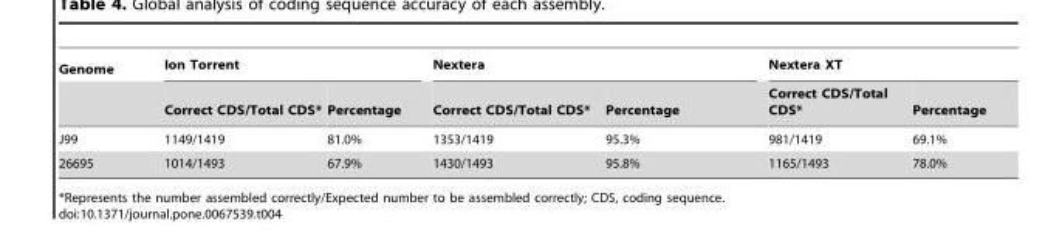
<table><thead><tr><td rowspan="2">Genome</td><td colspan="2">Ion Torrent</td><td colspan="2">Nextera</td><td colspan="2">Nextera XT</td></tr><tr><td>Correct CDS/Total CDS*</td><td>Percentage</td><td>Correct CDS/Total CDS*</td><td>Percentage</td><td>Correct CDS/Total CDS*</td><td>Percentage</td></tr></thead><tbody><tr><td>J99</td><td>1149/1419</td><td>81.0%</td><td>1353/1419</td><td>95.3%</td><td>981/1419</td><td>69.1%</td></tr><tr><td>26695</td><td>1014/1493</td><td>67.9%</td><td>1430/1493</td><td>95.8%</td><td>1165/1493</td><td>78.0%</td></tr></tbody></table>